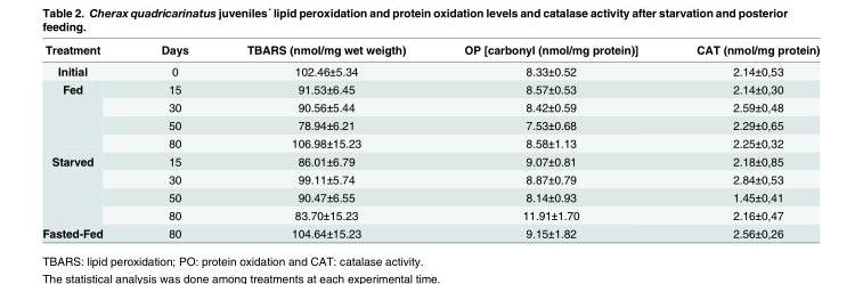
<table><thead><tr><td>Treatment</td><td>Days</td><td>TBARS (nmol/mg wet weigth)</td><td>OP [carbonyl (nmol/mg protein)]</td><td>CAT (nmol/mg protein)</td></tr></thead><tbody><tr><td>Initial</td><td>0</td><td>102.46±5.34</td><td>8.33±0.52</td><td>2.14±0,53</td></tr><tr><td rowspan="4">Fed</td><td>15</td><td>91.53±6.45</td><td>8.57±0.53</td><td>2.14±0,30</td></tr><tr><td>30</td><td>90.56±5.44</td><td>8.42±0.59</td><td>2.59±0,48</td></tr><tr><td>50</td><td>78.94±6.21</td><td>7.53±0.68</td><td>2.29±0,65</td></tr><tr><td>80</td><td>106.98±15.23</td><td>8.58±1.13</td><td>2.25±0,32</td></tr><tr><td rowspan="4">Starved</td><td>15</td><td>86.01±6.79</td><td>9.07±0.81</td><td>2.18±0,85</td></tr><tr><td>30</td><td>99.11±5.74</td><td>8.87±0.79</td><td>2.84±0,53</td></tr><tr><td>50</td><td>90.47±6.55</td><td>8.14±0.93</td><td>1.45±0,41</td></tr><tr><td>80</td><td>83.70±15.23</td><td>11.91±1.70</td><td>2.16±0,47</td></tr><tr><td>Fasted-Fed</td><td>80</td><td>104.64±15.23</td><td>9.15±1.82</td><td>2.56±0,26</td></tr></tbody></table>